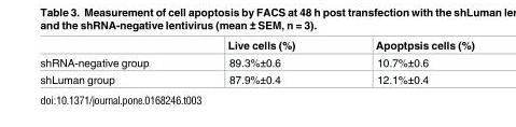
<table><thead><tr><td></td><td>Live cells (%)</td><td>Apoptpsis cells (%)</td></tr></thead><tbody><tr><td>shRNA-negative group</td><td>89.3%±0.6</td><td>10.7%±0.6</td></tr><tr><td>shLuman group</td><td>87.9%±0.4</td><td>12.1%±0.4</td></tr></tbody></table>